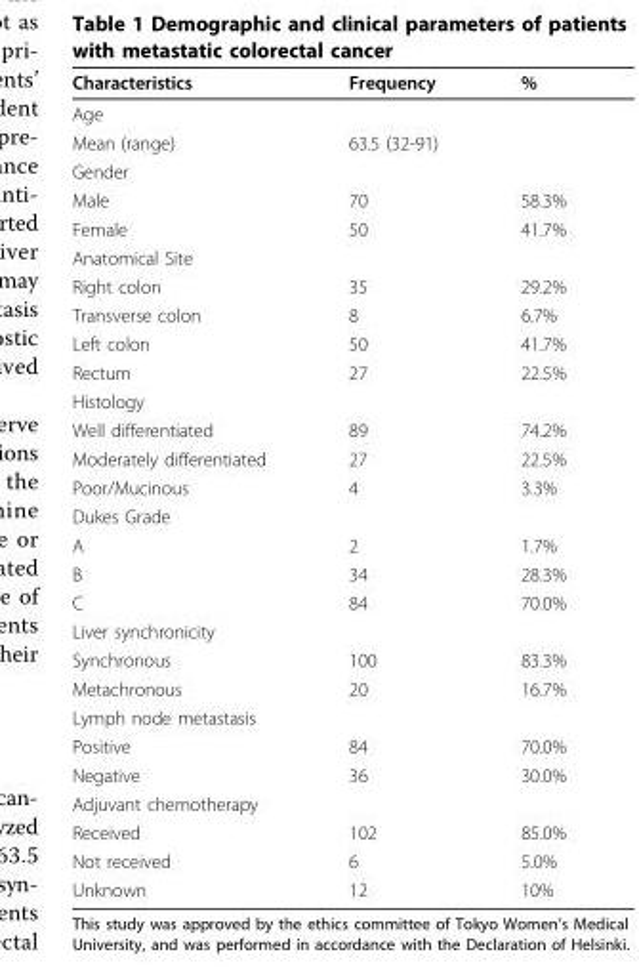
<table><thead><tr><td>Characteristics</td><td>Frequency</td><td>%</td></tr></thead><tbody><tr><td colspan="3">Age</td></tr><tr><td>Mean (range)</td><td>63.5 (32-91)</td><td></td></tr><tr><td colspan="3">Gender</td></tr><tr><td>Male</td><td>70</td><td>58.3%</td></tr><tr><td>Female</td><td>50</td><td>41.7%</td></tr><tr><td colspan="3">Anatomical Site</td></tr><tr><td>Right colon</td><td>35</td><td>29.2%</td></tr><tr><td>Transverse colon</td><td>8</td><td>6.7%</td></tr><tr><td>Left colon</td><td>50</td><td>41.7%</td></tr><tr><td>Rectum</td><td>27</td><td>22.5%</td></tr><tr><td colspan="3">Histology</td></tr><tr><td>Well differentiated</td><td>89</td><td>74.2%</td></tr><tr><td>Moderately differentiated</td><td>27</td><td>22.5%</td></tr><tr><td>Poor/Mucinous</td><td>4</td><td>3.3%</td></tr><tr><td colspan="3">Dukes Grade</td></tr><tr><td>A</td><td>2</td><td>1.7%</td></tr><tr><td>B</td><td>34</td><td>28.3%</td></tr><tr><td>C</td><td>84</td><td>70.0%</td></tr><tr><td colspan="3">Liver synchronicity</td></tr><tr><td>Synchronous</td><td>100</td><td>83.3%</td></tr><tr><td>Metachronous</td><td>20</td><td>16.7%</td></tr><tr><td colspan="3">Lymph node metastasis</td></tr><tr><td>Positive</td><td>84</td><td>70.0%</td></tr><tr><td>Negative</td><td>36</td><td>30.0%</td></tr><tr><td colspan="3">Adjuvant chemotherapy</td></tr><tr><td>Received</td><td>102</td><td>85.0%</td></tr><tr><td>Not received</td><td>6</td><td>5.0%</td></tr><tr><td>Unknown</td><td>12</td><td>10%</td></tr></tbody></table>